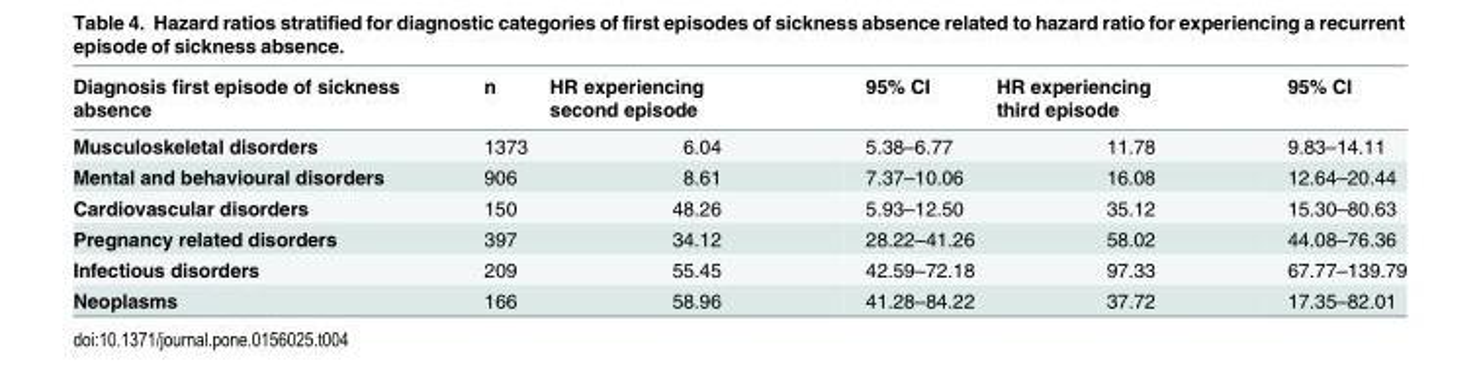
<table><thead><tr><td>Diagnosis first episode of sickness absence</td><td>n</td><td>HR experiencing second episode</td><td>95% CI</td><td>HR experiencing third episode</td><td>95% CI</td></tr></thead><tbody><tr><td>Musculoskeletal disorders</td><td>1373</td><td>6.04</td><td>5.38–6.77</td><td>11.78</td><td>9.83–14.11</td></tr><tr><td>Mental and behavioural disorders</td><td>906</td><td>8.61</td><td>7.37–10.06</td><td>16.08</td><td>12.64–20.44</td></tr><tr><td>Cardiovascular disorders</td><td>150</td><td>48.26</td><td>5.93–12.50</td><td>35.12</td><td>15.30–80.63</td></tr><tr><td>Pregnancy related disorders</td><td>397</td><td>34.12</td><td>28.22–41.26</td><td>58.02</td><td>44.08–76.36</td></tr><tr><td>Infectious disorders</td><td>209</td><td>55.45</td><td>42.59–72.18</td><td>97.33</td><td>67.77–139.79</td></tr><tr><td>Neoplasms</td><td>166</td><td>58.96</td><td>41.28–84.22</td><td>37.72</td><td>17.35–82.01</td></tr></tbody></table>